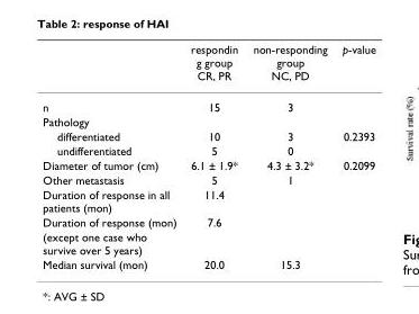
<table><thead><tr><td></td><td>respondin g group CR, PR</td><td>non-responding group NC, PD</td><td>p-value</td></tr></thead><tbody><tr><td>n</td><td>15</td><td>3</td><td></td></tr><tr><td colspan="4">Pathology</td></tr><tr><td>differentiated</td><td>10</td><td>3</td><td>0.2393</td></tr><tr><td>undifferentiated</td><td>5</td><td>0</td><td></td></tr><tr><td>Diameter of tumor (cm)</td><td>6.1 ± 1.9*</td><td>4.3 ± 3.2*</td><td>0.2099</td></tr><tr><td>Other metastasis</td><td>5</td><td>1</td><td></td></tr><tr><td>Duration of response in all patients (mon)</td><td>11.4</td><td></td><td></td></tr><tr><td>Duration of response (mon)</td><td>7.6</td><td></td><td></td></tr><tr><td colspan="4">(except one case who survive over 5 years)</td></tr><tr><td>Median survival (mon)</td><td>20.0</td><td>15.3</td><td></td></tr></tbody></table>